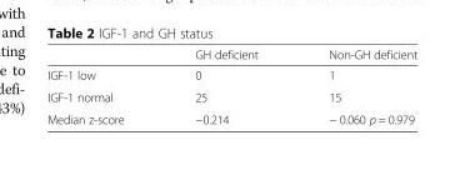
<table><thead><tr><td></td><td>GH deficient</td><td>Non-GH deficient</td></tr></thead><tbody><tr><td>IGF-1 low</td><td>0</td><td>1</td></tr><tr><td>IGF-1 normal</td><td>25</td><td>15</td></tr><tr><td>Median z-score</td><td>−0.214</td><td>− 0.060 p = 0.979</td></tr></tbody></table>